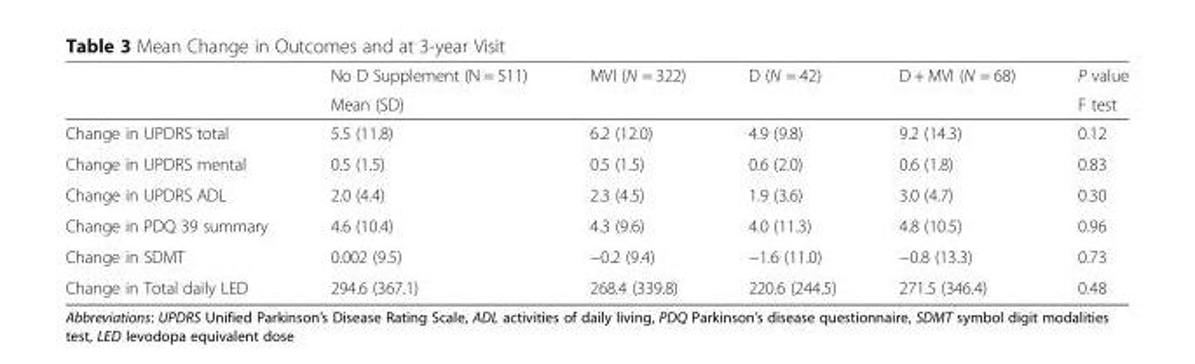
<table><thead><tr><td rowspan="2"></td><td>No D Supplement (N = 511)</td><td>MVI (N = 322)</td><td>D (N = 42)</td><td>D + MVI (N = 68)</td><td rowspan="2">P value F test</td></tr><tr><td colspan="4">Mean (SD)</td></tr></thead><tbody><tr><td>Change in UPDRS total</td><td>5.5 (11.8)</td><td>6.2 (12.0)</td><td>4.9 (9.8)</td><td>9.2 (14.3)</td><td>0.12</td></tr><tr><td>Change in UPDRS mental</td><td>0.5 (1.5)</td><td>0.5 (1.5)</td><td>0.6 (2.0)</td><td>0.6 (1.8)</td><td>0.83</td></tr><tr><td>Change in UPDRS ADL</td><td>2.0 (4.4)</td><td>2.3 (4.5)</td><td>1.9 (3.6)</td><td>3.0 (4.7)</td><td>0.30</td></tr><tr><td>Change in PDQ 39 summary</td><td>4.6 (10.4)</td><td>4.3 (9.6)</td><td>4.0 (11.3)</td><td>4.8 (10.5)</td><td>0.96</td></tr><tr><td>Change in SDMT</td><td>0.002 (9.5)</td><td>−0.2 (9.4)</td><td>−1.6 (11.0)</td><td>−0.8 (13.3)</td><td>0.73</td></tr><tr><td>Change in Total daily LED</td><td>294.6 (367.1)</td><td>268.4 (339.8)</td><td>220.6 (244.5)</td><td>271.5 (346.4)</td><td>0.48</td></tr></tbody></table>